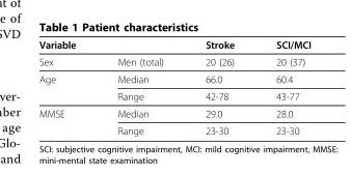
<table><thead><tr><td>Variable</td><td></td><td>Stroke</td><td>SCI/MCI</td></tr></thead><tbody><tr><td>Sex</td><td>Men (total)</td><td>20 (26)</td><td>20 (37)</td></tr><tr><td rowspan="2">Age</td><td>Median</td><td>66.0</td><td>60.4</td></tr><tr><td>Range</td><td>42-78</td><td>43-77</td></tr><tr><td rowspan="2">MMSE</td><td>Median</td><td>29.0</td><td>28.0</td></tr><tr><td>Range</td><td>23-30</td><td>23-30</td></tr></tbody></table>